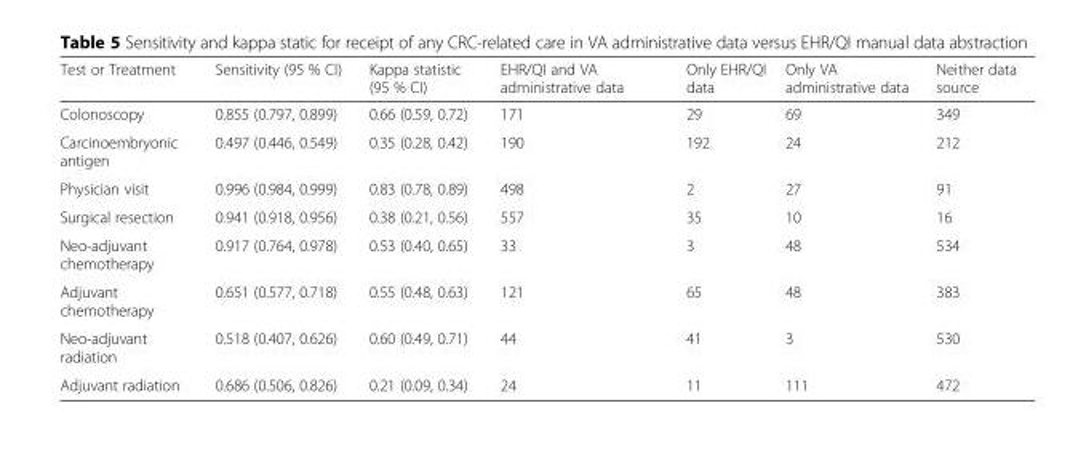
<table><thead><tr><td>Test or Treatment</td><td>Sensitivity (95 % CI)</td><td>Kappa statistic (95 % CI)</td><td>EHR/QI and VA administrative data</td><td>Only EHR/QI data</td><td>Only VA administrative data</td><td>Neither data source</td></tr></thead><tbody><tr><td>Colonoscopy</td><td>0.855 (0.797, 0.899)</td><td>0.66 (0.59, 0.72)</td><td>171</td><td>29</td><td>69</td><td>349</td></tr><tr><td>Carcinoembryonic antigen</td><td>0.497 (0.446, 0.549)</td><td>0.35 (0.28, 0.42)</td><td>190</td><td>192</td><td>24</td><td>212</td></tr><tr><td>Physician visit</td><td>0.996 (0.984, 0.999)</td><td>0.83 (0.78, 0.89)</td><td>498</td><td>2</td><td>27</td><td>91</td></tr><tr><td>Surgical resection</td><td>0.941 (0.918, 0.956)</td><td>0.38 (0.21, 0.56)</td><td>557</td><td>35</td><td>10</td><td>16</td></tr><tr><td>Neo-adjuvant chemotherapy</td><td>0.917 (0.764, 0.978)</td><td>0.53 (0.40, 0.65)</td><td>33</td><td>3</td><td>48</td><td>534</td></tr><tr><td>Adjuvant chemotherapy</td><td>0.651 (0.577, 0.718)</td><td>0.55 (0.48, 0.63)</td><td>121</td><td>65</td><td>48</td><td>383</td></tr><tr><td>Neo-adjuvant radiation</td><td>0.518 (0.407, 0.626)</td><td>0.60 (0.49, 0.71)</td><td>44</td><td>41</td><td>3</td><td>530</td></tr><tr><td>Adjuvant radiation</td><td>0.686 (0.506, 0.826)</td><td>0.21 (0.09, 0.34)</td><td>24</td><td>11</td><td>111</td><td>472</td></tr></tbody></table>